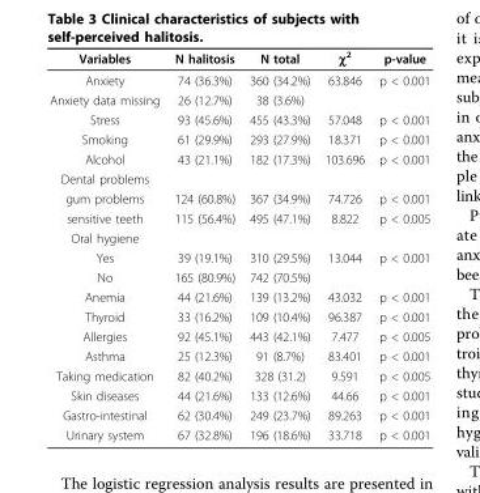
<table><thead><tr><td>Variables</td><td>N halitosis</td><td>N total</td><td>χ<sup>2</sup></td><td>p-value</td></tr></thead><tbody><tr><td>Anxiety</td><td>74 (36.3%)</td><td>360 (34.2%)</td><td>63.846</td><td>p &lt; 0.001</td></tr><tr><td>Anxiety data missing</td><td>26 (12.7%)</td><td>38 (3.6%)</td><td></td><td></td></tr><tr><td>Stress</td><td>93 (45.6%)</td><td>455 (43.3%)</td><td>57.048</td><td>p &lt; 0.001</td></tr><tr><td>Smoking</td><td>61 (29.9%)</td><td>293 (27.9%)</td><td>18.371</td><td>p &lt; 0.001</td></tr><tr><td>Alcohol</td><td>43 (21.1%)</td><td>182 (17.3%)</td><td>103.696</td><td>p &lt; 0.001</td></tr><tr><td colspan="5">Dental problems</td></tr><tr><td>gum problems</td><td>124 (60.8%)</td><td>367 (34.9%)</td><td>74.726</td><td>p &lt; 0.001</td></tr><tr><td>sensitive teeth</td><td>115 (56.4%)</td><td>495 (47.1%)</td><td>8.822</td><td>p &lt; 0.005</td></tr><tr><td colspan="5">Oral hygiene</td></tr><tr><td>Yes</td><td>39 (19.1%)</td><td>310 (29.5%)</td><td>13.044</td><td>p &lt; 0.001</td></tr><tr><td>No</td><td>165 (80.9%)</td><td>742 (70.5%)</td><td></td><td></td></tr><tr><td>Anemia</td><td>44 (21.6%)</td><td>139 (13.2%)</td><td>43.032</td><td>p &lt; 0.001</td></tr><tr><td>Thyroid</td><td>33 (16.2%)</td><td>109 (10.4%)</td><td>96.387</td><td>p &lt; 0.001</td></tr><tr><td>Allergies</td><td>92 (45.1%)</td><td>443 (42.1%)</td><td>7.477</td><td>p &lt; 0.005</td></tr><tr><td>Asthma</td><td>25 (12.3%)</td><td>91 (8.7%)</td><td>83.401</td><td>p &lt; 0.001</td></tr><tr><td>Taking medication</td><td>82 (40.2%)</td><td>328 (31.2)</td><td>9.591</td><td>p &lt; 0.005</td></tr><tr><td>Skin diseases</td><td>44 (21.6%)</td><td>133 (12.6%)</td><td>44.66</td><td>p &lt; 0.001</td></tr><tr><td>Gastro-intestinal</td><td>62 (30.4%)</td><td>249 (23.7%)</td><td>89.263</td><td>p &lt; 0.001</td></tr><tr><td>Urinary system</td><td>67 (32.8%)</td><td>196 (18.6%)</td><td>33.718</td><td>p &lt; 0.001</td></tr></tbody></table>